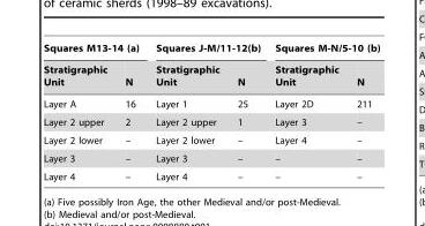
<table><thead><tr><td colspan="2">Squares M13-14 (a)</td><td colspan="2">Squares J-M/11-12(b)</td><td colspan="2">Squares M-N/5-10 (b)</td></tr><tr><td>Stratigraphic Unit</td><td>N</td><td>Stratigraphic Unit</td><td>N</td><td>Stratigraphic Unit</td><td>N</td></tr></thead><tbody><tr><td>Layer A</td><td>16</td><td>Layer 1</td><td>25</td><td>Layer 2D</td><td>211</td></tr><tr><td>Layer 2 upper</td><td>2</td><td>Layer 2 upper</td><td>1</td><td>Layer 3</td><td>–</td></tr><tr><td>Layer 2 lower</td><td>–</td><td>Layer 2 lower</td><td>–</td><td>Layer 4</td><td>–</td></tr><tr><td>Layer 3</td><td>–</td><td>Layer 3</td><td>–</td><td>–</td><td>–</td></tr><tr><td>Layer 4</td><td>–</td><td>Layer 4</td><td>–</td><td>–</td><td>–</td></tr></tbody></table>